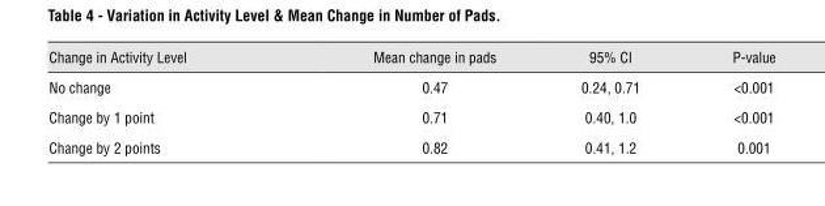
<table><thead><tr><td>Change in Activity Level</td><td>Mean change in pads</td><td>95% CI</td><td>P-value</td></tr></thead><tbody><tr><td>No change</td><td>0.47</td><td>0.24, 0.71</td><td>&lt;0.001</td></tr><tr><td>Change by 1 point</td><td>0.71</td><td>0.40, 1.0</td><td>&lt;0.001</td></tr><tr><td>Change by 2 points</td><td>0.82</td><td>0.41, 1.2</td><td>0.001</td></tr></tbody></table>